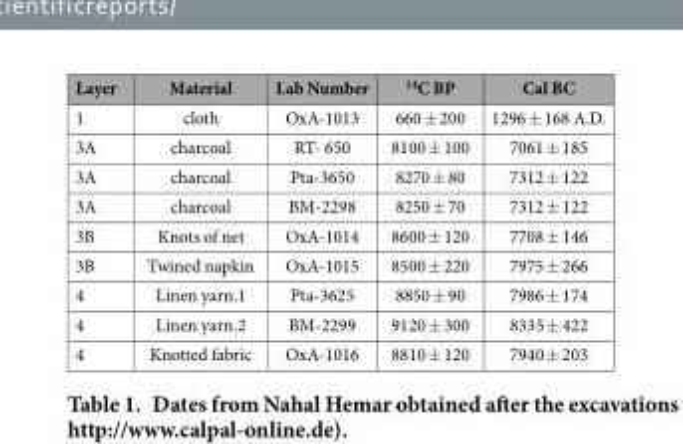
<table><thead><tr><td>Layer</td><td>Material</td><td>Lab Number</td><td><sup>14</sup>C BP</td><td>Cal BC</td></tr></thead><tbody><tr><td>1</td><td>cloth</td><td>OxA-1013</td><td>660 ± 200</td><td>1296 ± 168 A.D.</td></tr><tr><td>3A</td><td>charcoal</td><td>RT- 650</td><td>8100 ± 100</td><td>7061 ± 185</td></tr><tr><td>3A</td><td>charcoal</td><td>Pta-3650</td><td>8270 ± 80</td><td>7312 ± 122</td></tr><tr><td>3A</td><td>charcoal</td><td>BM-2298</td><td>8250 ± 70</td><td>7312 ± 122</td></tr><tr><td>3B</td><td>Knots of net</td><td>OxA-1014</td><td>8600 ± 120</td><td>7708 ± 146</td></tr><tr><td>3B</td><td>Twined napkin</td><td>OxA-1015</td><td>8500 ± 220</td><td>7975 ± 266</td></tr><tr><td>4</td><td>Linen yarn.1</td><td>Pta-3625</td><td>8850 ± 90</td><td>7986 ± 174</td></tr><tr><td>4</td><td>Linen yarn.2</td><td>BM-2299</td><td>9120 ± 300</td><td>8335 ± 422</td></tr><tr><td>4</td><td>Knotted fabric</td><td>OxA-1016</td><td>8810 ± 120</td><td>7940 ± 203</td></tr></tbody></table>